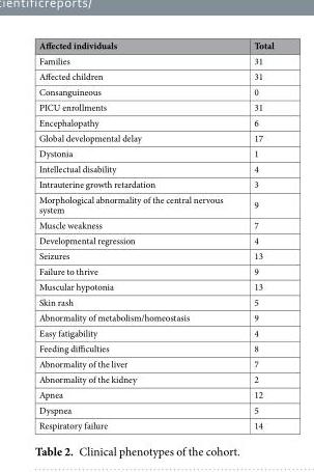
<table><thead><tr><td>Affected individuals</td><td>Total</td></tr></thead><tbody><tr><td>Families</td><td>31</td></tr><tr><td>Affected children</td><td>31</td></tr><tr><td>Consanguineous</td><td>0</td></tr><tr><td>PICU enrollments</td><td>31</td></tr><tr><td>Encephalopathy</td><td>6</td></tr><tr><td>Global developmental delay</td><td>17</td></tr><tr><td>Dystonia</td><td>1</td></tr><tr><td>Intellectual disability</td><td>4</td></tr><tr><td>Intrauterine growth retardation</td><td>3</td></tr><tr><td>Morphological abnormality of the central nervous system</td><td>9</td></tr><tr><td>Muscle weakness</td><td>7</td></tr><tr><td>Developmental regression</td><td>4</td></tr><tr><td>Seizures</td><td>13</td></tr><tr><td>Failure to thrive</td><td>9</td></tr><tr><td>Muscular hypotonia</td><td>13</td></tr><tr><td>Skin rash</td><td>5</td></tr><tr><td>Abnormality of metabolism/homeostasis</td><td>9</td></tr><tr><td>Easy fatigability</td><td>4</td></tr><tr><td>Feeding difficulties</td><td>8</td></tr><tr><td>Abnormality of the liver</td><td>7</td></tr><tr><td>Abnormality of the kidney</td><td>2</td></tr><tr><td>Apnea</td><td>12</td></tr><tr><td>Dyspnea</td><td>5</td></tr><tr><td>Respiratory failure</td><td>14</td></tr></tbody></table>